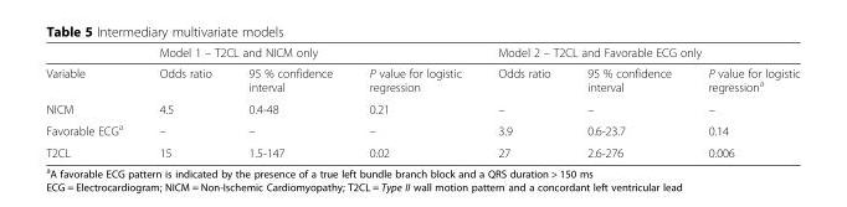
<table><thead><tr><td rowspan="2">Variable</td><td colspan="3">Model 1 – T2CL and NICM only</td><td colspan="3">Model 2 – T2CL and Favorable ECG only</td></tr><tr><td>Odds ratio</td><td>95 % confidence interval</td><td>P value for logistic regression</td><td>Odds ratio</td><td>95 % confidence interval</td><td>P value for logistic regression<sup>a</sup></td></tr></thead><tbody><tr><td>NICM</td><td>4.5</td><td>0.4-48</td><td>0.21</td><td>–</td><td>–</td><td>–</td></tr><tr><td>Favorable ECG<sup>a</sup></td><td>–</td><td>–</td><td>–</td><td>3.9</td><td>0.6-23.7</td><td>0.14</td></tr><tr><td>T2CL</td><td>15</td><td>1.5-147</td><td>0.02</td><td>27</td><td>2.6-276</td><td>0.006</td></tr></tbody></table>